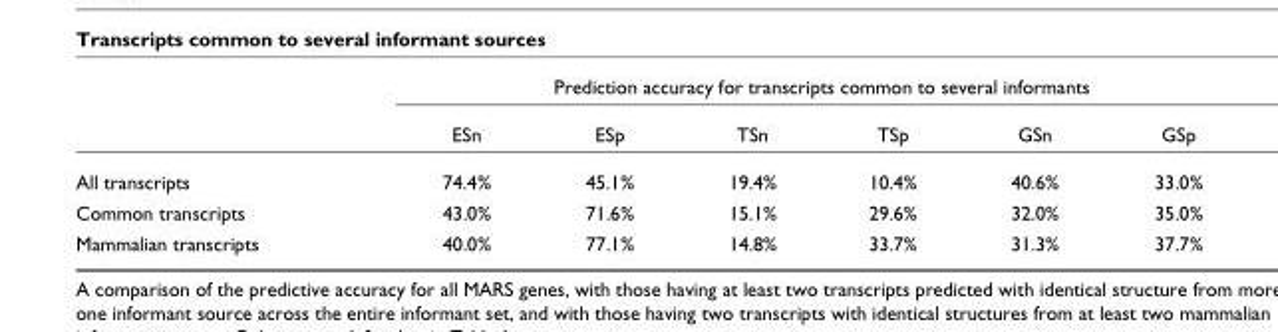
<table><thead><tr><td rowspan="2"></td><td colspan="6">Prediction accuracy for transcripts common to several informants</td></tr><tr><td>ESn</td><td>ESp</td><td>TSn</td><td>TSp</td><td>GSn</td><td>GSp</td></tr></thead><tbody><tr><td>All transcripts</td><td>74.4%</td><td>45.1%</td><td>19.4%</td><td>10.4%</td><td>40.6%</td><td>33.0%</td></tr><tr><td>Common transcripts</td><td>43.0%</td><td>71.6%</td><td>15.1%</td><td>29.6%</td><td>32.0%</td><td>35.0%</td></tr><tr><td>Mammalian transcripts</td><td>40.0%</td><td>77.1%</td><td>14.8%</td><td>33.7%</td><td>31.3%</td><td>37.7%</td></tr></tbody></table>